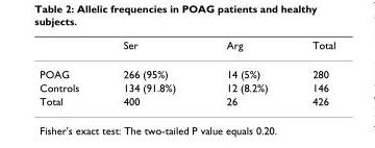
<table><thead><tr><td></td><td>Ser</td><td>Arg</td><td>Total</td></tr></thead><tbody><tr><td>POAG</td><td>266 (95%)</td><td>14 (5%)</td><td>280</td></tr><tr><td>Controls</td><td>134 (91.8%)</td><td>12 (8.2%)</td><td>146</td></tr><tr><td>Total</td><td>400</td><td>26</td><td>426</td></tr></tbody></table>